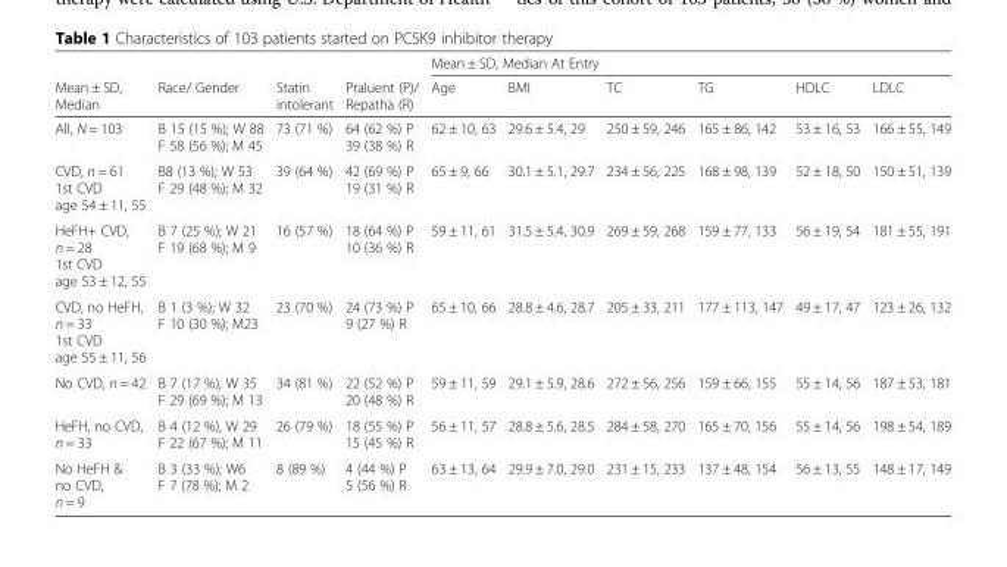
<table><thead><tr><td rowspan="2">Mean ± SD, Median</td><td rowspan="2">Race/ Gender</td><td rowspan="2">Statin intolerant</td><td rowspan="2">Praluent (P)/ Repatha (R)</td><td colspan="6">Mean ± SD, Median At Entry</td></tr><tr><td>Age</td><td>BMI</td><td>TC</td><td>TG</td><td>HDLC</td><td>LDLC</td></tr></thead><tbody><tr><td>All, N = 103</td><td>B 15 (15 %); W 88 F 58 (56 %); M 45</td><td>73 (71 %)</td><td>64 (62 %) P 39 (38 %) R</td><td>62 ± 10, 63</td><td>29.6 ± 5.4, 29</td><td>250 ± 59, 246</td><td>165 ± 86, 142</td><td>53 ± 16, 53</td><td>166 ± 55, 149</td></tr><tr><td>CVD, n = 61 1st CVD age 54 ± 11, 55</td><td>B8 (13 %); W 53 F 29 (48 %); M 32</td><td>39 (64 %)</td><td>42 (69 %) P 19 (31 %) R</td><td>65 ± 9, 66</td><td>30.1 ± 5.1, 29.7</td><td>234 ± 56, 225</td><td>168 ± 98, 139</td><td>52 ± 18, 50</td><td>150 ± 51, 139</td></tr><tr><td>HeFH+ CVD, n = 28 1st CVD age 53 ± 12, 55</td><td>B 7 (25 %); W 21 F 19 (68 %); M 9</td><td>16 (57 %)</td><td>18 (64 %) P 10 (36 %) R</td><td>59 ± 11, 61</td><td>31.5 ± 5.4, 30.9</td><td>269 ± 59, 268</td><td>159 ± 77, 133</td><td>56 ± 19, 54</td><td>181 ± 55, 191</td></tr><tr><td>CVD, no HeFH, n = 33 1st CVD age 55 ± 11, 56</td><td>B 1 (3 %); W 32 F 10 (30 %); M23</td><td>23 (70 %)</td><td>24 (73 %) P 9 (27 %) R</td><td>65 ± 10, 66</td><td>28.8 ± 4.6, 28.7</td><td>205 ± 33, 211</td><td>177 ± 113, 147</td><td>49 ± 17, 47</td><td>123 ± 26, 132</td></tr><tr><td>No CVD, n = 42</td><td>B 7 (17 %), W 35 F 29 (69 %); M 13</td><td>34 (81 %)</td><td>22 (52 %) P 20 (48 %) R</td><td>59 ± 11, 59</td><td>29.1 ± 5.9, 28.6</td><td>272 ± 56, 256</td><td>159 ± 66, 155</td><td>55 ± 14, 56</td><td>187 ± 53, 181</td></tr><tr><td>HeFH, no CVD, n = 33</td><td>B 4 (12 %), W 29 F 22 (67 %); M 11</td><td>26 (79 %)</td><td>18 (55 %) P 15 (45 %) R</td><td>56 ± 11, 57</td><td>28.8 ± 5.6, 28.5</td><td>284 ± 58, 270</td><td>165 ± 70, 156</td><td>55 ± 14, 56</td><td>198 ± 54, 189</td></tr><tr><td>No HeFH &amp; no CVD, n = 9</td><td>B 3 (33 %); W6 F 7 (78 %); M 2</td><td>8 (89 %)</td><td>4 (44 %) P 5 (56 %) R</td><td>63 ± 13, 64</td><td>29.9 ± 7.0, 29.0</td><td>231 ± 15, 233</td><td>137 ± 48, 154</td><td>56 ± 13, 55</td><td>148 ± 17, 149</td></tr></tbody></table>